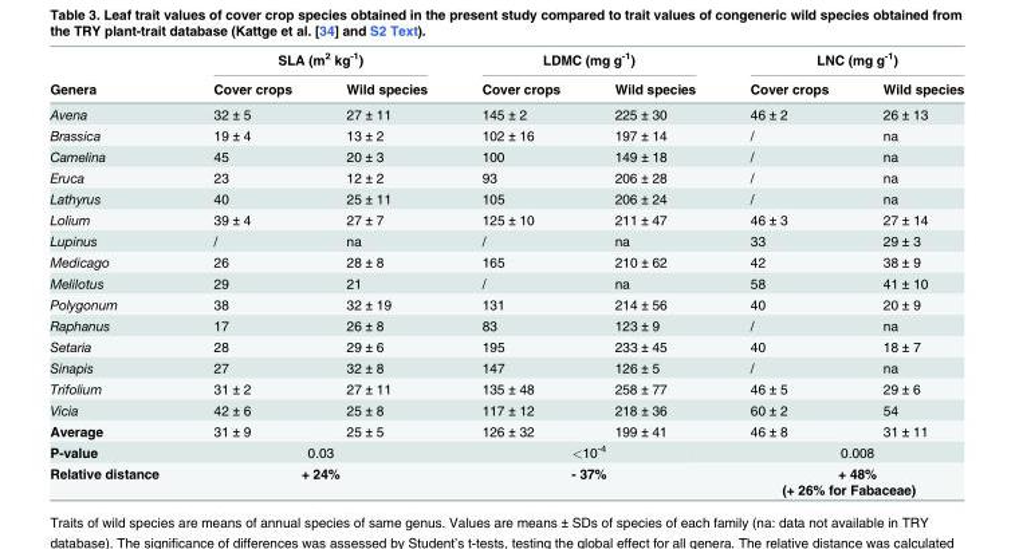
<table><thead><tr><td rowspan="2">Genera</td><td colspan="2">SLA (m<sup>2</sup> kg<sup>-1</sup>)</td><td colspan="2">LDMC (mg g<sup>-1</sup>)</td><td colspan="2">LNC (mg g<sup>-1</sup>)</td></tr><tr><td>Cover crops</td><td>Wild species</td><td>Cover crops</td><td>Wild species</td><td>Cover crops</td><td>Wild species</td></tr></thead><tbody><tr><td>Avena</td><td>32 ± 5</td><td>27 ± 11</td><td>145 ± 2</td><td>225 ± 30</td><td>46 ± 2</td><td>26 ± 13</td></tr><tr><td>Brassica</td><td>19 ± 4</td><td>13 ± 2</td><td>102 ± 16</td><td>197 ± 14</td><td>/</td><td>na</td></tr><tr><td>Camelina</td><td>45</td><td>20 ± 3</td><td>100</td><td>149 ± 18</td><td>/</td><td>na</td></tr><tr><td>Eruca</td><td>23</td><td>12 ± 2</td><td>93</td><td>206 ± 28</td><td>/</td><td>na</td></tr><tr><td>Lathyrus</td><td>40</td><td>25 ± 11</td><td>105</td><td>206 ± 24</td><td>/</td><td>na</td></tr><tr><td>Lolium</td><td>39 ± 4</td><td>27 ± 7</td><td>125 ± 10</td><td>211 ± 47</td><td>46 ± 3</td><td>27 ± 14</td></tr><tr><td>Lupinus</td><td>/</td><td>na</td><td>/</td><td>na</td><td>33</td><td>29 ± 3</td></tr><tr><td>Medicago</td><td>26</td><td>28 ± 8</td><td>165</td><td>210 ± 62</td><td>42</td><td>38 ± 9</td></tr><tr><td>Melilotus</td><td>29</td><td>21</td><td>/</td><td>na</td><td>58</td><td>41 ± 10</td></tr><tr><td>Polygonum</td><td>38</td><td>32 ± 19</td><td>131</td><td>214 ± 56</td><td>40</td><td>20 ± 9</td></tr><tr><td>Raphanus</td><td>17</td><td>26 ± 8</td><td>83</td><td>123 ± 9</td><td>/</td><td>na</td></tr><tr><td>Setaria</td><td>28</td><td>29 ± 6</td><td>195</td><td>233 ± 45</td><td>40</td><td>18 ± 7</td></tr><tr><td>Sinapis</td><td>27</td><td>32 ± 8</td><td>147</td><td>126 ± 5</td><td>/</td><td>na</td></tr><tr><td>Trifolium</td><td>31 ± 2</td><td>27 ± 11</td><td>135 ± 48</td><td>258 ± 77</td><td>46 ± 5</td><td>29 ± 6</td></tr><tr><td>Vicia</td><td>42 ± 6</td><td>25 ± 8</td><td>117 ± 12</td><td>218 ± 36</td><td>60 ± 2</td><td>54</td></tr><tr><td>Average</td><td>31 ± 9</td><td>25 ± 5</td><td>126 ± 32</td><td>199 ± 41</td><td>46 ± 8</td><td>31 ± 11</td></tr><tr><td>P-value</td><td colspan="2">0.03</td><td colspan="2">&lt;10<sup>-4</sup></td><td colspan="2">0.008</td></tr><tr><td>Relative distance</td><td colspan="2">+ 24%</td><td colspan="2">- 37%</td><td colspan="2">+ 48% (+ 26% for Fabaceae)</td></tr></tbody></table>